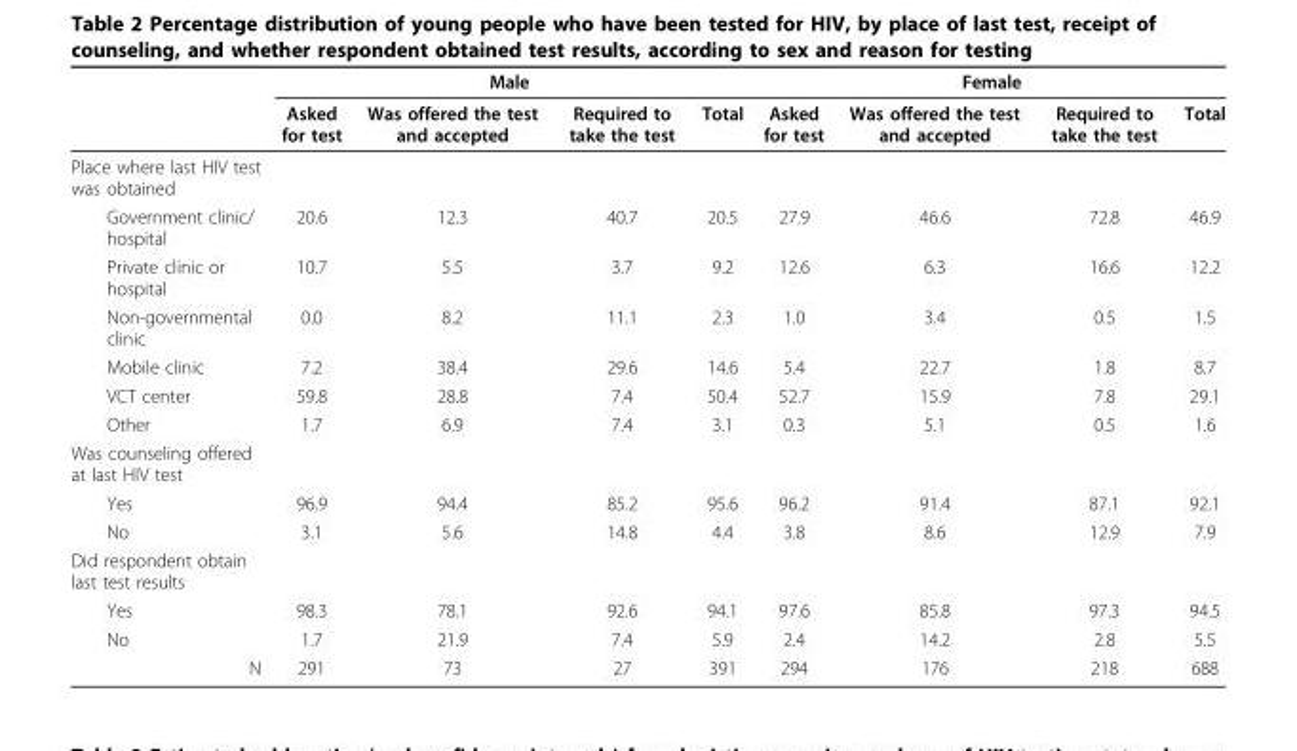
<table><thead><tr><td rowspan="2"></td><td colspan="4">Male</td><td colspan="4">Female</td></tr><tr><td>Asked for test</td><td>Was offered the test and accepted</td><td>Required to take the test</td><td>Total</td><td>Asked for test</td><td>Was offered the test and accepted</td><td>Required to take the test</td><td>Total</td></tr></thead><tbody><tr><td colspan="9">Place where last HIV test was obtained</td></tr><tr><td>Government clinic/ hospital</td><td>20.6</td><td>12.3</td><td>40.7</td><td>20.5</td><td>27.9</td><td>46.6</td><td>72.8</td><td>46.9</td></tr><tr><td>Private clinic or hospital</td><td>10.7</td><td>5.5</td><td>3.7</td><td>9.2</td><td>12.6</td><td>6.3</td><td>16.6</td><td>12.2</td></tr><tr><td>Non-governmental clinic</td><td>0.0</td><td>8.2</td><td>11.1</td><td>2.3</td><td>1.0</td><td>3.4</td><td>0.5</td><td>1.5</td></tr><tr><td>Mobile clinic</td><td>7.2</td><td>38.4</td><td>29.6</td><td>14.6</td><td>5.4</td><td>22.7</td><td>1.8</td><td>8.7</td></tr><tr><td>VCT center</td><td>59.8</td><td>28.8</td><td>7.4</td><td>50.4</td><td>52.7</td><td>15.9</td><td>7.8</td><td>29.1</td></tr><tr><td>Other</td><td>1.7</td><td>6.9</td><td>7.4</td><td>3.1</td><td>0.3</td><td>5.1</td><td>0.5</td><td>1.6</td></tr><tr><td colspan="9">Was counseling offered at last HIV test</td></tr><tr><td>Yes</td><td>96.9</td><td>94.4</td><td>85.2</td><td>95.6</td><td>96.2</td><td>91.4</td><td>87.1</td><td>92.1</td></tr><tr><td>No</td><td>3.1</td><td>5.6</td><td>14.8</td><td>4.4</td><td>3.8</td><td>8.6</td><td>12.9</td><td>7.9</td></tr><tr><td colspan="9">Did respondent obtain last test results</td></tr><tr><td>Yes</td><td>98.3</td><td>78.1</td><td>92.6</td><td>94.1</td><td>97.6</td><td>85.8</td><td>97.3</td><td>94.5</td></tr><tr><td>No</td><td>1.7</td><td>21.9</td><td>7.4</td><td>5.9</td><td>2.4</td><td>14.2</td><td>2.8</td><td>5.5</td></tr><tr><td>N</td><td>291</td><td>73</td><td>27</td><td>391</td><td>294</td><td>176</td><td>218</td><td>688</td></tr></tbody></table>